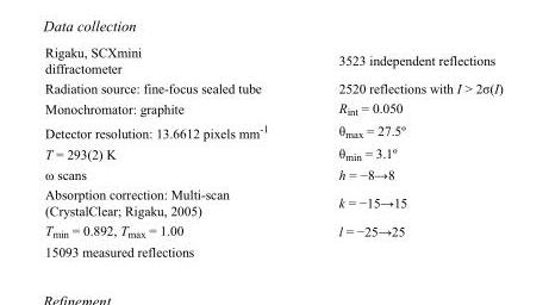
<table><tbody><tr><td>Rigaku, SCXmini diffractometer</td><td>3523 independent reflections</td></tr><tr><td>Radiation source: fine-focus sealed tube</td><td>2520 reflections with I &gt; 2σ(I)</td></tr><tr><td>Monochromator: graphite</td><td>R<sub>int</sub> = 0.050</td></tr><tr><td>Detector resolution: 13.6612 pixels mm<sup>-1</sup></td><td>θ<sub>max</sub> = 27.5º</td></tr><tr><td>T = 293(2) K</td><td>θ<sub>min</sub> = 3.1º</td></tr><tr><td>ω scans</td><td>h = −8→8</td></tr><tr><td>Absorption correction: Multi-scan (CrystalClear; Rigaku, 2005)</td><td>k = −15→15</td></tr><tr><td>T<sub>min</sub> = 0.892, T<sub>max</sub> = 1.00</td><td>l = −25→25</td></tr><tr><td>15093 measured reflections</td><td></td></tr></tbody></table>